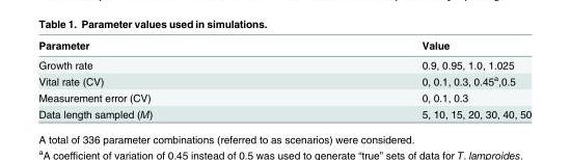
<table><thead><tr><td>Parameter</td><td>Value</td></tr></thead><tbody><tr><td>Growth rate</td><td>0.9, 0.95, 1.0, 1.025</td></tr><tr><td>Vital rate (CV)</td><td>0, 0.1, 0.3, 0.45<sup>a</sup>,0.5</td></tr><tr><td>Measurement error (CV)</td><td>0, 0.1, 0.3</td></tr><tr><td>Data length sampled (M)</td><td>5, 10, 15, 20, 30, 40, 50</td></tr></tbody></table>